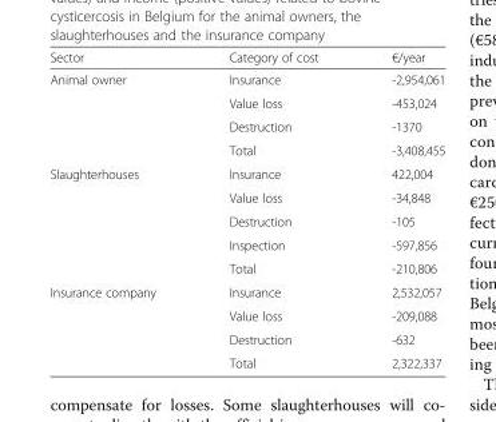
<table><thead><tr><td>Sector</td><td>Category of cost</td><td>€/year</td></tr></thead><tbody><tr><td rowspan="4">Animal owner</td><td>Insurance</td><td>-2,954,061</td></tr><tr><td>Value loss</td><td>-453,024</td></tr><tr><td>Destruction</td><td>-1370</td></tr><tr><td>Total</td><td>-3,408,455</td></tr><tr><td rowspan="5">Slaughterhouses</td><td>Insurance</td><td>422,004</td></tr><tr><td>Value loss</td><td>-34,848</td></tr><tr><td>Destruction</td><td>-105</td></tr><tr><td>Inspection</td><td>-597,856</td></tr><tr><td>Total</td><td>-210,806</td></tr><tr><td rowspan="4">Insurance company</td><td>Insurance</td><td>2,532,057</td></tr><tr><td>Value loss</td><td>-209,088</td></tr><tr><td>Destruction</td><td>-632</td></tr><tr><td>Total</td><td>2,322,337</td></tr></tbody></table>